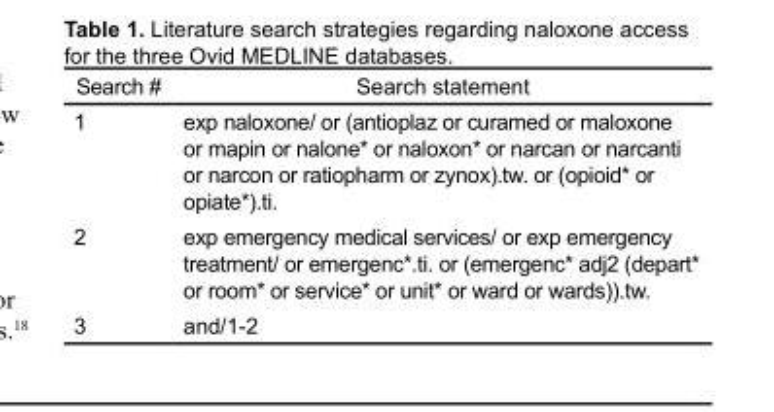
<table><thead><tr><td>Search #</td><td>Search statement</td></tr></thead><tbody><tr><td>1</td><td>exp naloxone/ or (antioplaz or curamed or maloxone or mapin or nalone* or naloxon* or narcan or narcanti or narcon or ratiopharm or zynox).tw. or (opioid* or opiate*).ti.</td></tr><tr><td>2</td><td>exp emergency medical services/ or exp emergency treatment/ or emergenc*.ti. or (emergenc* adj2 (depart* or room* or service* or unit* or ward or wards)).tw.</td></tr><tr><td>3</td><td>and/1-2</td></tr></tbody></table>